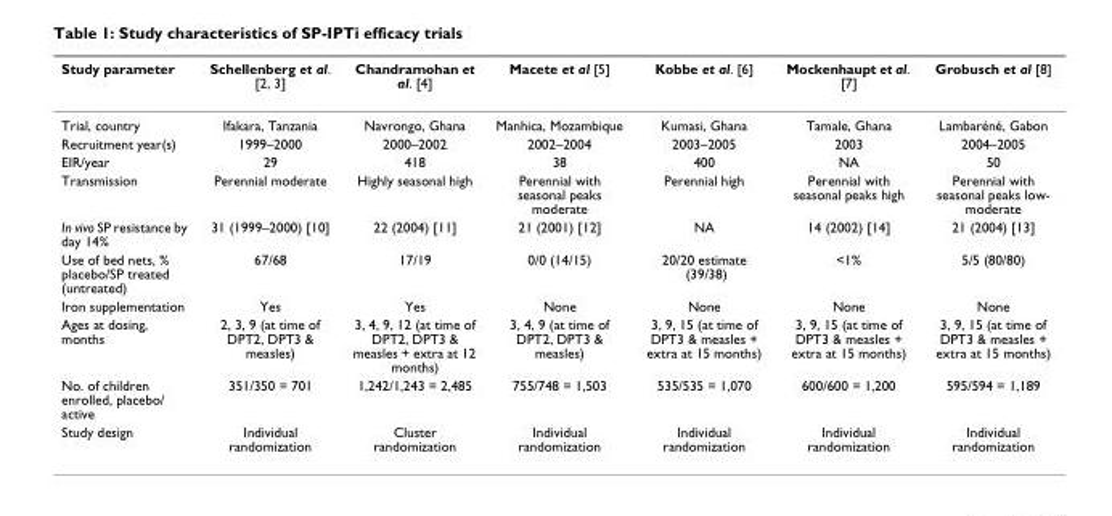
<table><thead><tr><td>Study parameter</td><td>Schellenberg et al. [2, 3]</td><td>Chandramohan et al. [4]</td><td>Macete et al [5]</td><td>Kobbe et al. [6]</td><td>Mockenhaupt et al. [7]</td><td>Grobusch et al [8]</td></tr></thead><tbody><tr><td>Trial, country</td><td>Ifakara, Tanzania</td><td>Navrongo, Ghana</td><td>Manhica, Mozambique</td><td>Kumasi, Ghana</td><td>Tamale, Ghana</td><td>Lambaréné, Gabon</td></tr><tr><td>Recruitment year(s)</td><td>1999–2000</td><td>2000–2002</td><td>2002–2004</td><td>2003–2005</td><td>2003</td><td>2004–2005</td></tr><tr><td>EIR/year</td><td>29</td><td>418</td><td>38</td><td>400</td><td>NA</td><td>50</td></tr><tr><td>Transmission</td><td>Perennial moderate</td><td>Highly seasonal high</td><td>Perennial with seasonal peaks moderate</td><td>Perennial high</td><td>Perennial with seasonal peaks high</td><td>Perennial with seasonal peaks low- moderate</td></tr><tr><td>In vivo SP resistance by day 14%</td><td>31 (1999–2000) [10]</td><td>22 (2004) [11]</td><td>21 (2001) [12]</td><td>NA</td><td>14 (2002) [14]</td><td>21 (2004) [13]</td></tr><tr><td>Use of bed nets, % placebo/SP treated (untreated)</td><td>67/68</td><td>17/19</td><td>0/0 (14/15)</td><td>20/20 estimate (39/38)</td><td>&lt;1%</td><td>5/5 (80/80)</td></tr><tr><td>Iron supplementation</td><td>Yes</td><td>Yes</td><td>None</td><td>None</td><td>None</td><td>None</td></tr><tr><td>Ages at dosing, months</td><td>2, 3, 9 (at time of DPT2, DPT3 &amp; measles)</td><td>3, 4, 9, 12 (at time of DPT2, DPT3 &amp; measles + extra at 12 months)</td><td>3, 4, 9 (at time of DPT2, DPT3 &amp; measles)</td><td>3, 9, 15 (at time of DPT3 &amp; measles + extra at 15 months)</td><td>3, 9, 15 (at time of DPT3 &amp; measles + extra at 15 months)</td><td>3, 9, 15 (at time of DPT3 &amp; measles + extra at 15 months)</td></tr><tr><td>No. of children enrolled, placebo/ active</td><td>351/350 = 701</td><td>1,242/1,243 = 2,485</td><td>755/748 = 1,503</td><td>535/535 = 1,070</td><td>600/600 = 1,200</td><td>595/594 = 1,189</td></tr><tr><td>Study design</td><td>Individual randomization</td><td>Cluster randomization</td><td>Individual randomization</td><td>Individual randomization</td><td>Individual randomization</td><td>Individual randomization</td></tr></tbody></table>